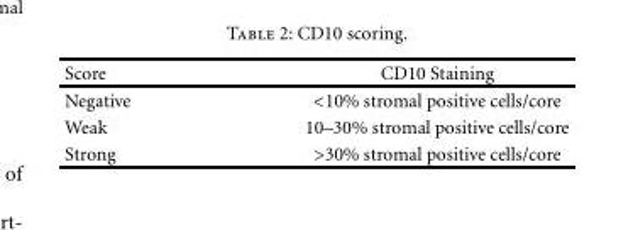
<table><thead><tr><td>Score</td><td>CD10 Staining</td></tr></thead><tbody><tr><td>Negative</td><td>&lt;10% stromal positive cells/core</td></tr><tr><td>Weak</td><td>10–30% stromal positive cells/core</td></tr><tr><td>Strong</td><td>&gt;30% stromal positive cells/core</td></tr></tbody></table>